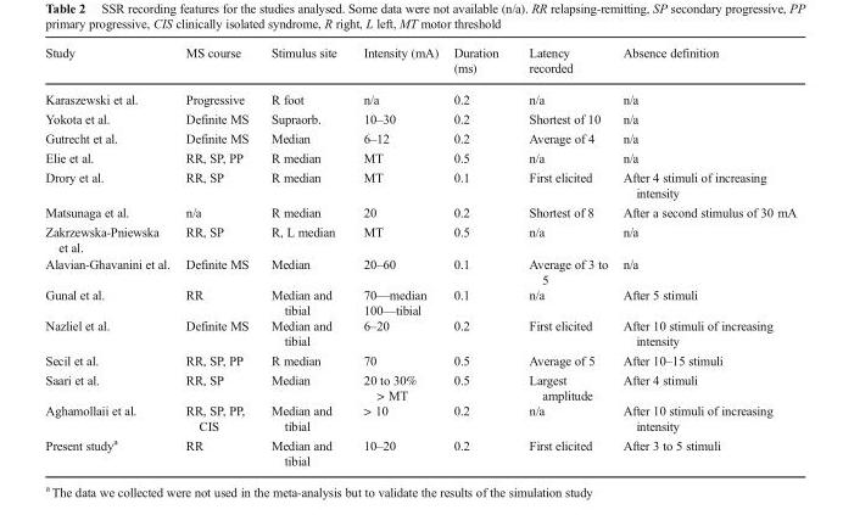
<table><thead><tr><td>Study</td><td>MS course</td><td>Stimulus site</td><td>Intensity (mA)</td><td>Duration (ms)</td><td>Latency recorded</td><td>Absence definition</td></tr></thead><tbody><tr><td>Karaszewski et al.</td><td>Progressive</td><td>R foot</td><td>n/a</td><td>0.2</td><td>n/a</td><td>n/a</td></tr><tr><td>Yokota et al.</td><td>Definite MS</td><td>Supraorb.</td><td>10–30</td><td>0.2</td><td>Shortest of 10</td><td>n/a</td></tr><tr><td>Gutrecht et al.</td><td>Definite MS</td><td>Median</td><td>6–12</td><td>0.2</td><td>Average of 4</td><td>n/a</td></tr><tr><td>Elie et al.</td><td>RR, SP, PP</td><td>R median</td><td>MT</td><td>0.5</td><td>n/a</td><td>n/a</td></tr><tr><td>Drory et al.</td><td>RR, SP</td><td>R median</td><td>MT</td><td>0.1</td><td>First elicited</td><td>After 4 stimuli of increasing intensity</td></tr><tr><td>Matsunaga et al.</td><td>n/a</td><td>R median</td><td>20</td><td>0.2</td><td>Shortest of 8</td><td>After a second stimulus of 30 mA</td></tr><tr><td>Zakrzewska-Pniewska et al.</td><td>RR, SP</td><td>R, L median</td><td>MT</td><td>0.5</td><td>n/a</td><td>n/a</td></tr><tr><td>Alavian-Ghavanini et al.</td><td>Definite MS</td><td>Median</td><td>20–60</td><td>0.1</td><td>Average of 3 to 5</td><td>n/a</td></tr><tr><td>Gunal et al.</td><td>RR</td><td>Median and tibial</td><td>70—median 100—tibial</td><td>0.1</td><td>n/a</td><td>After 5 stimuli</td></tr><tr><td>Nazliel et al.</td><td>Definite MS</td><td>Median and tibial</td><td>6–20</td><td>0.2</td><td>First elicited</td><td>After 10 stimuli of increasing intensity</td></tr><tr><td>Secil et al.</td><td>RR, SP, PP</td><td>R median</td><td>70</td><td>0.5</td><td>Average of 5</td><td>After 10–15 stimuli</td></tr><tr><td>Saari et al.</td><td>RR, SP</td><td>Median</td><td>20 to 30% &gt; MT</td><td>0.5</td><td>Largest amplitude</td><td>After 4 stimuli</td></tr><tr><td>Aghamollaii et al.</td><td>RR, SP, PP, CIS</td><td>Median and tibial</td><td>&gt; 10</td><td>0.2</td><td>n/a</td><td>After 10 stimuli of increasing intensity</td></tr><tr><td>Present study<sup>a</sup></td><td>RR</td><td>Median and tibial</td><td>10–20</td><td>0.2</td><td>First elicited</td><td>After 3 to 5 stimuli</td></tr></tbody></table>